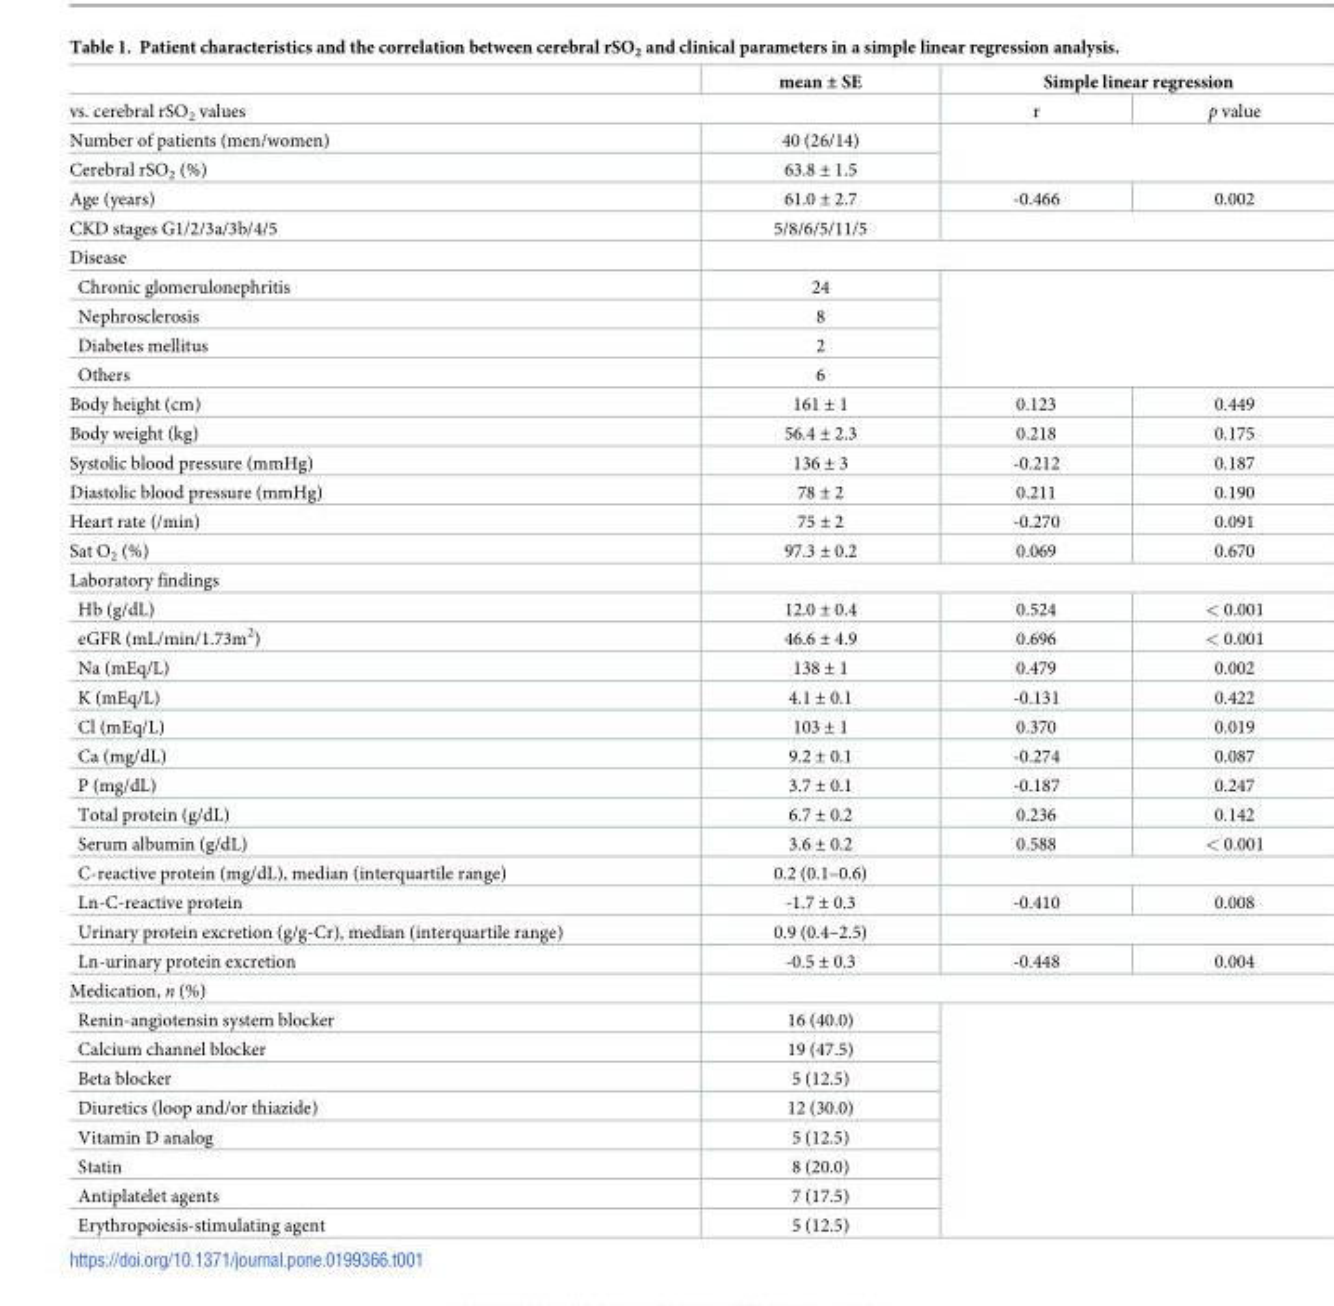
<table><thead><tr><td></td><td>mean ± SE</td><td colspan="2">Simple linear regression</td></tr><tr><td colspan="2">vs. cerebral rSO<sub>2</sub> values</td><td>r</td><td>p value</td></tr></thead><tbody><tr><td>Number of patients (men/women)</td><td>40 (26/14)</td><td rowspan="2" colspan="2"></td></tr><tr><td>Cerebral rSO<sub>2</sub> (%)</td><td>63.8 ± 1.5</td></tr><tr><td>Age (years)</td><td>61.0 ± 2.7</td><td>-0.466</td><td>0.002</td></tr><tr><td>CKD stages G1/2/3a/3b/4/5</td><td>5/8/6/5/11/5</td><td colspan="2"></td></tr><tr><td colspan="4">Disease</td></tr><tr><td>Chronic glomerulonephritis</td><td>24</td><td rowspan="4" colspan="2"></td></tr><tr><td>Nephrosclerosis</td><td>8</td></tr><tr><td>Diabetes mellitus</td><td>2</td></tr><tr><td>Others</td><td>6</td></tr><tr><td>Body height (cm)</td><td>161 ± 1</td><td>0.123</td><td>0.449</td></tr><tr><td>Body weight (kg)</td><td>56.4 ± 2.3</td><td>0.218</td><td>0.175</td></tr><tr><td>Systolic blood pressure (mmHg)</td><td>136 ± 3</td><td>-0.212</td><td>0.187</td></tr><tr><td>Diastolic blood pressure (mmHg)</td><td>78 ± 2</td><td>0.211</td><td>0.190</td></tr><tr><td>Heart rate (/min)</td><td>75 ± 2</td><td>-0.270</td><td>0.091</td></tr><tr><td>Sat O<sub>2</sub> (%)</td><td>97.3 ± 0.2</td><td>0.069</td><td>0.670</td></tr><tr><td colspan="4">Laboratory findings</td></tr><tr><td>Hb (g/dL)</td><td>12.0 ± 0.4</td><td>0.524</td><td>&lt; 0.001</td></tr><tr><td>eGFR (mL/min/1.73m<sup>2</sup>)</td><td>46.6 ± 4.9</td><td>0.696</td><td>&lt; 0.001</td></tr><tr><td>Na (mEq/L)</td><td>138 ± 1</td><td>0.479</td><td>0.002</td></tr><tr><td>K (mEq/L)</td><td>4.1 ± 0.1</td><td>-0.131</td><td>0.422</td></tr><tr><td>Cl (mEq/L)</td><td>103 ± 1</td><td>0.370</td><td>0.019</td></tr><tr><td>Ca (mg/dL)</td><td>9.2 ± 0.1</td><td>-0.274</td><td>0.087</td></tr><tr><td>P (mg/dL)</td><td>3.7 ± 0.1</td><td>-0.187</td><td>0.247</td></tr><tr><td>Total protein (g/dL)</td><td>6.7 ± 0.2</td><td>0.236</td><td>0.142</td></tr><tr><td>Serum albumin (g/dL)</td><td>3.6 ± 0.2</td><td>0.588</td><td>&lt; 0.001</td></tr><tr><td>C-reactive protein (mg/dL), median (interquartile range)</td><td>0.2 (0.1–0.6)</td><td colspan="2"></td></tr><tr><td>Ln-C-reactive protein</td><td>-1.7 ± 0.3</td><td>-0.410</td><td>0.008</td></tr><tr><td>Urinary protein excretion (g/g-Cr), median (interquartile range)</td><td>0.9 (0.4–2.5)</td><td colspan="2"></td></tr><tr><td>Ln-urinary protein excretion</td><td>-0.5 ± 0.3</td><td>-0.448</td><td>0.004</td></tr><tr><td colspan="4">Medication, n (%)</td></tr><tr><td>Renin-angiotensin system blocker</td><td>16 (40.0)</td><td rowspan="8" colspan="2"></td></tr><tr><td>Calcium channel blocker</td><td>19 (47.5)</td></tr><tr><td>Beta blocker</td><td>5 (12.5)</td></tr><tr><td>Diuretics (loop and/or thiazide)</td><td>12 (30.0)</td></tr><tr><td>Vitamin D analog</td><td>5 (12.5)</td></tr><tr><td>Statin</td><td>8 (20.0)</td></tr><tr><td>Antiplatelet agents</td><td>7 (17.5)</td></tr><tr><td>Erythropoiesis-stimulating agent</td><td>5 (12.5)</td></tr></tbody></table>